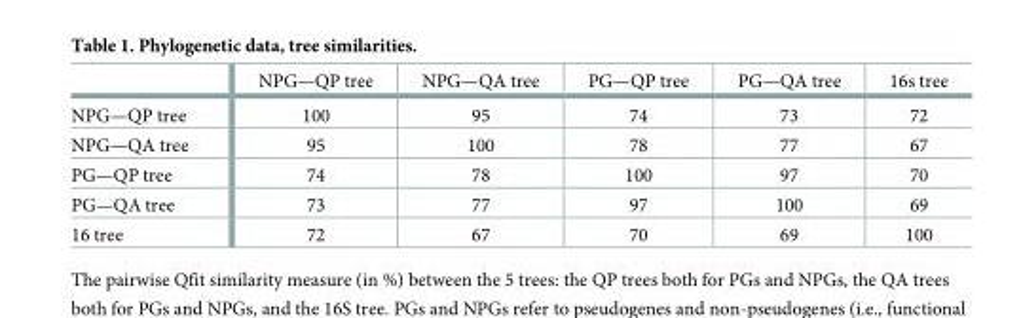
<table><thead><tr><td></td><td>NPG—QP tree</td><td>NPG—QA tree</td><td>PG—QP tree</td><td>PG—QA tree</td><td>16s tree</td></tr></thead><tbody><tr><td>NPG—QP tree</td><td>100</td><td>95</td><td>74</td><td>73</td><td>72</td></tr><tr><td>NPG—QA tree</td><td>95</td><td>100</td><td>78</td><td>77</td><td>67</td></tr><tr><td>PG—QP tree</td><td>74</td><td>78</td><td>100</td><td>97</td><td>70</td></tr><tr><td>PG—QA tree</td><td>73</td><td>77</td><td>97</td><td>100</td><td>69</td></tr><tr><td>16 tree</td><td>72</td><td>67</td><td>70</td><td>69</td><td>100</td></tr></tbody></table>